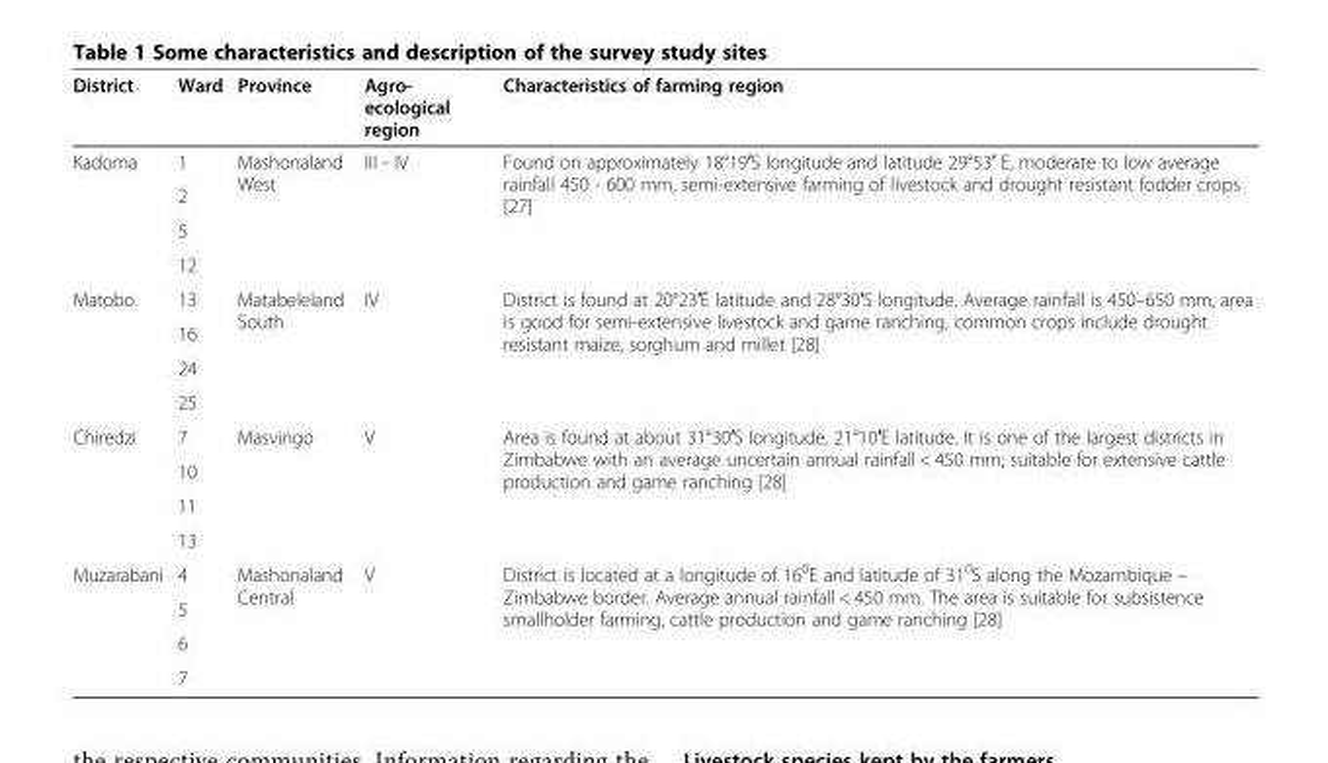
<table><thead><tr><td>District</td><td>Ward</td><td>Province</td><td>Agro- ecological region</td><td>Characteristics of farming region</td></tr></thead><tbody><tr><td rowspan="4">Kadoma</td><td>1</td><td rowspan="4">Mashonaland West</td><td rowspan="4">III - IV</td><td rowspan="4">Found on approximately 18°19′S longitude and latitude 29°53′ E, moderate to low average rainfall 450 - 600 mm, semi-extensive farming of livestock and drought resistant fodder crops [27]</td></tr><tr><td>2</td></tr><tr><td>5</td></tr><tr><td>12</td></tr><tr><td rowspan="4">Matobo</td><td>13</td><td rowspan="4">Matabeleland South</td><td rowspan="4">IV</td><td rowspan="4">District is found at 20°23′È latitude and 28°30′S longitude. Average rainfall is 450–650 mm, area is good for semi-extensive livestock and game ranching, common crops include drought resistant maize, sorghum and millet [28]</td></tr><tr><td>16</td></tr><tr><td>24</td></tr><tr><td>25</td></tr><tr><td rowspan="4">Chiredzi</td><td>7</td><td rowspan="4">Masvingo</td><td rowspan="4">V</td><td rowspan="4">Area is found at about 31°30′S longitude, 21°10′E latitude. It is one of the largest districts in Zimbabwe with an average uncertain annual rainfall &lt; 450 mm; suitable for extensive cattle production and game ranching [28]</td></tr><tr><td>10</td></tr><tr><td>11</td></tr><tr><td>13</td></tr><tr><td rowspan="4">Muzarabani</td><td>4</td><td rowspan="4">Mashonaland Central</td><td rowspan="4">V</td><td rowspan="4">District is located at a longitude of 16<sup>0</sup>E and latitude of 31<sup>0</sup>S along the Mozambique – Zimbabwe border. Average annual rainfall &lt; 450 mm. The area is suitable for subsistence smallholder farming, cattle production and game ranching [28]</td></tr><tr><td>5</td></tr><tr><td>6</td></tr><tr><td>7</td></tr></tbody></table>